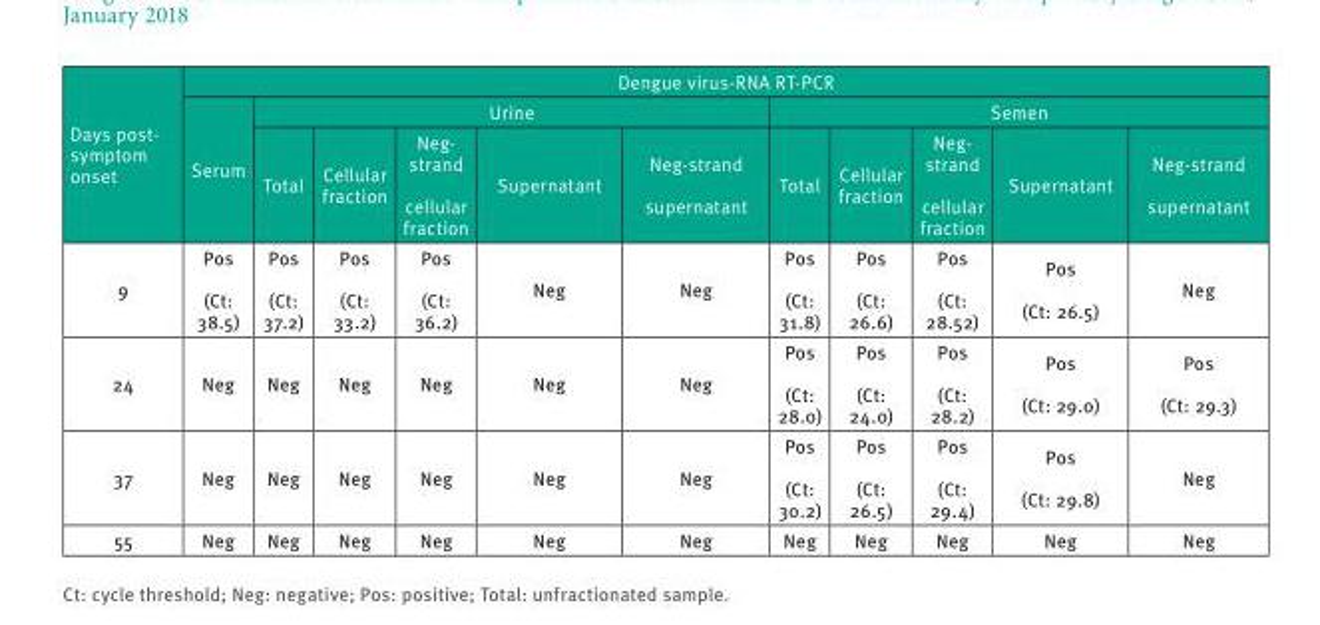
<table><thead><tr><td rowspan="3">Days post- symptom onset</td><td colspan="11">Dengue virus-RNA RT-PCR</td></tr><tr><td rowspan="2">Serum</td><td colspan="5">Urine</td><td colspan="5">Semen</td></tr><tr><td>Total</td><td>Cellular fraction</td><td>Neg- strand cellular fraction</td><td>Supernatant</td><td>Neg-strand supernatant</td><td>Total</td><td>Cellular fraction</td><td>Neg- strand cellular fraction</td><td>Supernatant</td><td>Neg-strand supernatant</td></tr></thead><tbody><tr><td>9</td><td>Pos (Ct: 38.5)</td><td>Pos (Ct: 37.2)</td><td>Pos (Ct: 33.2)</td><td>Pos (Ct: 36.2)</td><td>Neg</td><td>Neg</td><td>Pos (Ct: 31.8)</td><td>Pos (Ct: 26.6)</td><td>Pos (Ct: 28.52)</td><td>Pos (Ct: 26.5)</td><td>Neg</td></tr><tr><td>24</td><td>Neg</td><td>Neg</td><td>Neg</td><td>Neg</td><td>Neg</td><td>Neg</td><td>Pos (Ct: 28.0)</td><td>Pos (Ct: 24.0)</td><td>Pos (Ct: 28.2)</td><td>Pos (Ct: 29.0)</td><td>Pos (Ct: 29.3)</td></tr><tr><td>37</td><td>Neg</td><td>Neg</td><td>Neg</td><td>Neg</td><td>Neg</td><td>Neg</td><td>Pos (Ct: 30.2)</td><td>Pos (Ct: 26.5)</td><td>Pos (Ct: 29.4)</td><td>Pos (Ct: 29.8)</td><td>Neg</td></tr><tr><td>55</td><td>Neg</td><td>Neg</td><td>Neg</td><td>Neg</td><td>Neg</td><td>Neg</td><td>Neg</td><td>Neg</td><td>Neg</td><td>Neg</td><td>Neg</td></tr></tbody></table>